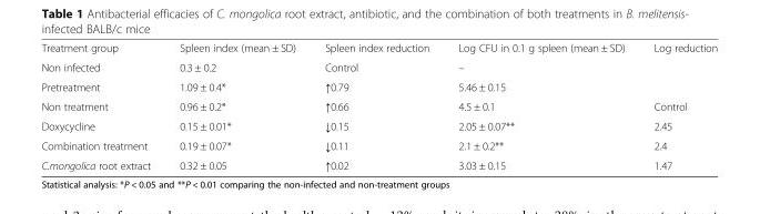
<table><tbody><tr><td>Treatment group</td><td>Spleen index (mean ± SD)</td><td>Spleen index reduction</td><td>Log CFU in 0.1 g spleen (mean ± SD)</td><td>Log reduction</td></tr><tr><td>Non infected</td><td>0.3 ± 0.2</td><td>Control</td><td>–</td><td></td></tr><tr><td>Pretreatment</td><td>1.09 ± 0.4*</td><td>↑0.79</td><td>5.46 ± 0.15</td><td></td></tr><tr><td>Non treatment</td><td>0.96 ± 0.2*</td><td>↑0.66</td><td>4.5 ± 0.1</td><td>Control</td></tr><tr><td>Doxycycline</td><td>0.15 ± 0.01*</td><td>↓0.15</td><td>2.05 ± 0.07**</td><td>2.45</td></tr><tr><td>Combination treatment</td><td>0.19 ± 0.07*</td><td>↓0.11</td><td>2.1 ± 0.2**</td><td>2.4</td></tr><tr><td>C.mongolica root extract</td><td>0.32 ± 0.05</td><td>↑0.02</td><td>3.03 ± 0.15</td><td>1.47</td></tr></tbody></table>